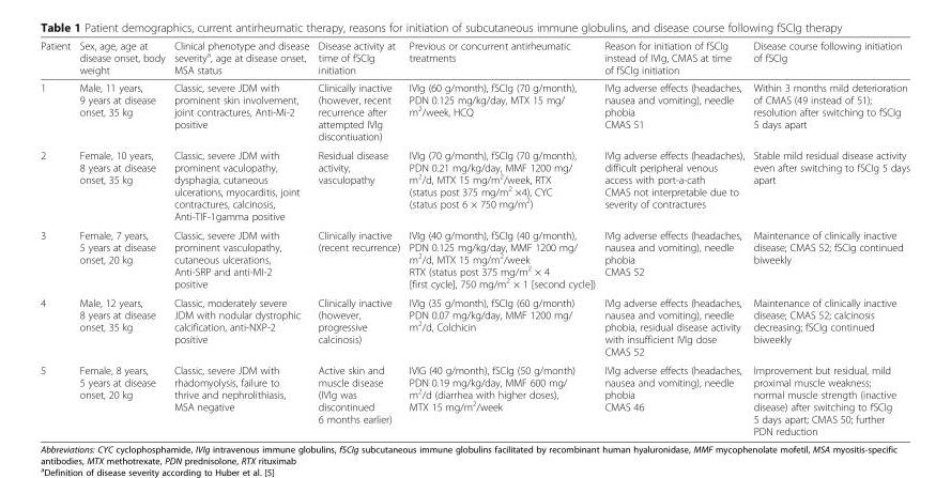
<table><thead><tr><td>Patient</td><td>Sex, age, age at disease onset, body weight</td><td>Clinical phenotype and disease severity<sup>a</sup>, age at disease onset, MSA status</td><td>Disease activity at time of fSCIg initiation</td><td>Previous or concurrent antirheumatic treatments</td><td>Reason for initiation of fSCIg instead of IVIg, CMAS at time of fSCIg initiation</td><td>Disease course following initiation of fSCIg</td></tr></thead><tbody><tr><td>1</td><td>Male, 11 years, 9 years at disease onset, 35 kg</td><td>Classic, severe JDM with prominent skin involvement, joint contractures, Anti-Mi-2 positive</td><td>Clinically inactive (however, recent recurrence after attempted IVIg discontiuation)</td><td>IVIg (60 g/month), fSCIg (70 g/month), PDN 0.125 mg/kg/day, MTX 15 mg/ m<sup>2</sup>/week, HCQ</td><td>IVIg adverse effects (headaches, nausea and vomiting), needle phobia CMAS 51</td><td>Within 3 months mild deterioration of CMAS (49 instead of 51); resolution after switching to fSCIg 5 days apart</td></tr><tr><td>2</td><td>Female, 10 years, 8 years at disease onset, 35 kg</td><td>Classic, severe JDM with prominent vaculopathy, dysphagia, cutaneous ulcerations, myocarditis, joint contractures, calcinosis, Anti-TIF-1gamma positive</td><td>Residual disease activity, vasculopathy</td><td>IVIg (70 g/month), fSCIg (70 g/month), PDN 0.21 mg/kg/day, MMF 1200 mg/ m<sup>2</sup>/d, MTX 15 mg/m<sup>2</sup>/week, RTX (status post 375 mg/m<sup>2</sup> ×4), CYC (status post 6 × 750 mg/m<sup>2</sup>)</td><td>IVIg adverse effects (headaches), difficult peripheral venous access with port-a-cath CMAS not interpretable due to severity of contractures</td><td>Stable mild residual disease activity even after switching to fSCIg 5 days apart</td></tr><tr><td>3</td><td>Female, 7 years, 5 years at disease onset, 20 kg</td><td>Classic, severe JDM with prominent vasculopathy, cutaneous ulcerations, Anti-SRP and anti-MI-2 positive</td><td>Clinically inactive (recent recurrence)</td><td>IVIg (40 g/month), fSCIg (40 g/month), PDN 0.125 mg/kg/day, MMF 1200 mg/ m<sup>2</sup>/d, MTX 15 mg/m<sup>2</sup>/week RTX (status post 375 mg/m<sup>2</sup> × 4 [first cycle], 750 mg/m<sup>2</sup> × 1 [second cycle])</td><td>IVIg adverse effects (headaches, nausea and vomiting), needle phobia CMAS 52</td><td>Maintenance of clinically inactive disease; CMAS 52; fSCIg continued biweekly</td></tr><tr><td>4</td><td>Male, 12 years, 8 years at disease onset, 35 kg</td><td>Classic, moderately severe JDM with nodular dystrophic calcification, anti-NXP-2 positive</td><td>Clinically inactive (however, progressive calcinosis)</td><td>IVIg (35 g/month), fSCIg (60 g/month) PDN 0.07 mg/kg/day, MMF 1200 mg/ m<sup>2</sup>/d, Colchicin</td><td>IVIg adverse effects (headaches, nausea and vomiting), needle phobia, residual disease activity with insufficient IVIg dose CMAS 52</td><td>Maintenance of clinically inactive disease; CMAS 52; calcinosis decreasing; fSCIg continued biweekly</td></tr><tr><td>5</td><td>Female, 8 years, 5 years at disease onset, 20 kg</td><td>Classic, severe JDM with rhadomyolysis, failure to thrive and nephrolithiasis, MSA negative</td><td>Active skin and muscle disease (IVIg was discontinued 6 months earlier)</td><td>IVIG (40 g/month), fSCIg (50 g/month) PDN 0.19 mg/kg/day, MMF 600 mg/ m<sup>2</sup>/d (diarrhea with higher doses), MTX 15 mg/m<sup>2</sup>/week</td><td>IVIg adverse effects (headaches, nausea and vomiting), needle phobia CMAS 46</td><td>Improvement but residual, mild proximal muscle weakness; normal muscle strength (inactive disease) after switching to fSCIg 5 days apart; CMAS 50; further PDN reduction</td></tr></tbody></table>